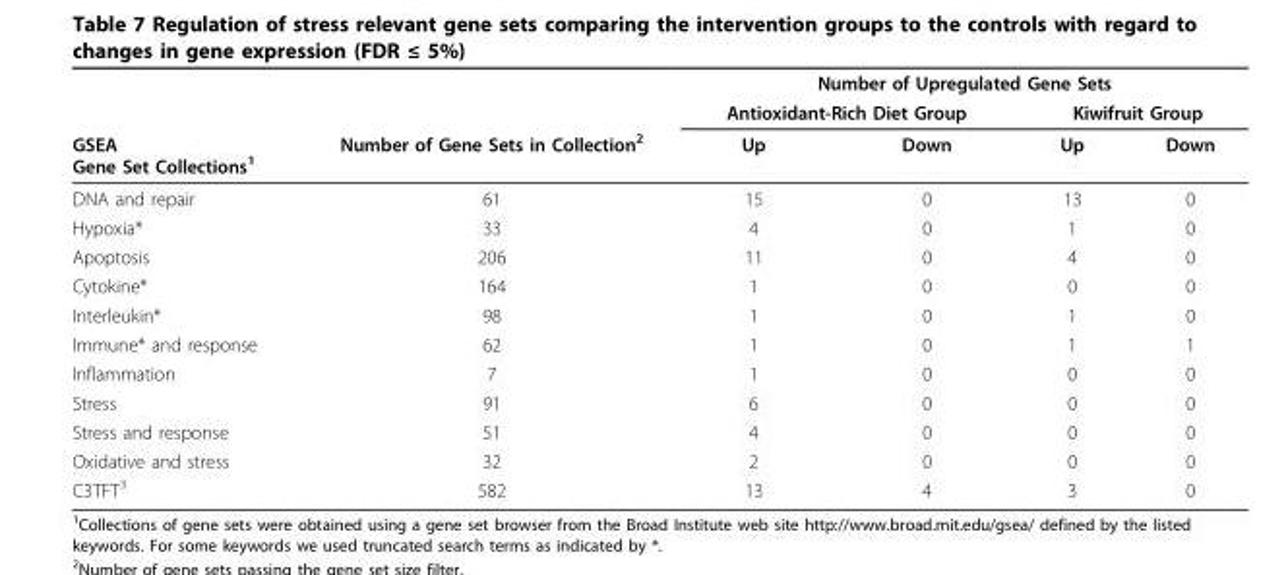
<table><thead><tr><td rowspan="3">GSEA Gene Set Collections<sup>1</sup></td><td rowspan="3">Number of Gene Sets in Collection<sup>2</sup></td><td colspan="4">Number of Upregulated Gene Sets</td></tr><tr><td colspan="2">Antioxidant-Rich Diet Group</td><td colspan="2">Kiwifruit Group</td></tr><tr><td>Up</td><td>Down</td><td>Up</td><td>Down</td></tr></thead><tbody><tr><td>DNA and repair</td><td>61</td><td>15</td><td>0</td><td>13</td><td>0</td></tr><tr><td>Hypoxia*</td><td>33</td><td>4</td><td>0</td><td>1</td><td>0</td></tr><tr><td>Apoptosis</td><td>206</td><td>11</td><td>0</td><td>4</td><td>0</td></tr><tr><td>Cytokine*</td><td>164</td><td>1</td><td>0</td><td>0</td><td>0</td></tr><tr><td>Interleukin*</td><td>98</td><td>1</td><td>0</td><td>1</td><td>0</td></tr><tr><td>Immune* and response</td><td>62</td><td>1</td><td>0</td><td>1</td><td>1</td></tr><tr><td>Inflammation</td><td>7</td><td>1</td><td>0</td><td>0</td><td>0</td></tr><tr><td>Stress</td><td>91</td><td>6</td><td>0</td><td>0</td><td>0</td></tr><tr><td>Stress and response</td><td>51</td><td>4</td><td>0</td><td>0</td><td>0</td></tr><tr><td>Oxidative and stress</td><td>32</td><td>2</td><td>0</td><td>0</td><td>0</td></tr><tr><td>C3TFT<sup>3</sup></td><td>582</td><td>13</td><td>4</td><td>3</td><td>0</td></tr></tbody></table>